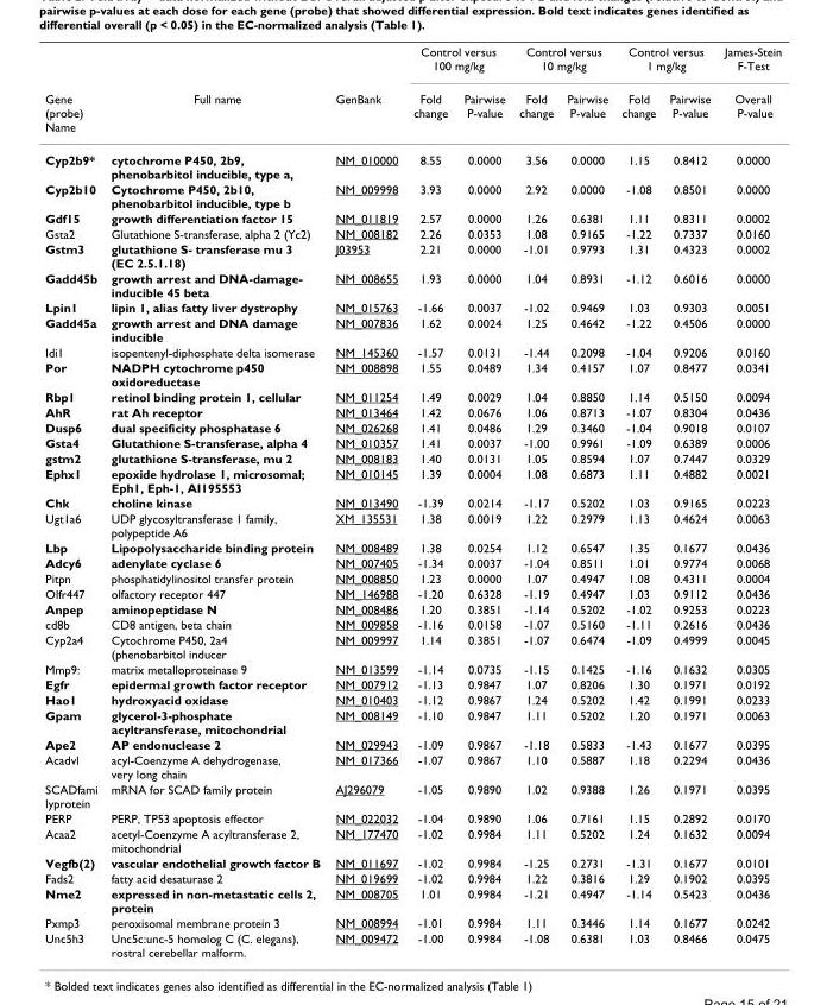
<table><thead><tr><td rowspan="2">Gene (probe) Name</td><td rowspan="2">Full name</td><td rowspan="2">GenBank</td><td colspan="2">Control versus 100 mg/kg</td><td colspan="2">Control versus 10 mg/kg</td><td colspan="2">Control versus 1 mg/kg</td><td rowspan="2">James-Stein F-Test Overall P-value</td></tr><tr><td>Fold change</td><td>Pairwise P-value</td><td>Fold change</td><td>Pairwise P-value</td><td>Fold change</td><td>Pairwise P-value</td></tr></thead><tbody><tr><td>Cyp2b9*</td><td>cytochrome P450, 2b9, phenobarbitol inducible, type a,</td><td>NM_010000</td><td>8.55</td><td>0.0000</td><td>3.56</td><td>0.0000</td><td>1.15</td><td>0.8412</td><td>0.0000</td></tr><tr><td>Cyp2b10</td><td>Cytochrome P450, 2b10, phenobarbitol inducible, type b</td><td>NM_009998</td><td>3.93</td><td>0.0000</td><td>2.92</td><td>0.0000</td><td>-1.08</td><td>0.8501</td><td>0.0000</td></tr><tr><td>Gdf15</td><td>growth differentiation factor 15</td><td>NM_011819</td><td>2.57</td><td>0.0000</td><td>1.26</td><td>0.6381</td><td>1.11</td><td>0.8311</td><td>0.0002</td></tr><tr><td>Gsta2</td><td>Glutathione S-transferase, alpha 2 (Yc2)</td><td>NM_008182</td><td>2.26</td><td>0.0353</td><td>1.08</td><td>0.9165</td><td>-1.22</td><td>0.7337</td><td>0.0160</td></tr><tr><td>Gstm3</td><td>glutathione S- transferase mu 3 (EC 2.5.1.18)</td><td>J03953</td><td>2.21</td><td>0.0000</td><td>-1.01</td><td>0.9793</td><td>1.31</td><td>0.4323</td><td>0.0002</td></tr><tr><td>Gadd45b</td><td>growth arrest and DNA-damage- inducible 45 beta</td><td>NM_008655</td><td>1.93</td><td>0.0000</td><td>1.04</td><td>0.8931</td><td>-1.12</td><td>0.6016</td><td>0.0000</td></tr><tr><td>Lpin1</td><td>lipin 1, alias fatty liver dystrophy</td><td>NM_015763</td><td>-1.66</td><td>0.0037</td><td>-1.02</td><td>0.9469</td><td>1.03</td><td>0.9303</td><td>0.0051</td></tr><tr><td>Gadd45a</td><td>growth arrest and DNA damage inducible</td><td>NM_007836</td><td>1.62</td><td>0.0024</td><td>1.25</td><td>0.4642</td><td>-1.22</td><td>0.4506</td><td>0.0000</td></tr><tr><td>Idi1</td><td>isopentenyl-diphosphate delta isomerase</td><td>NM_145360</td><td>-1.57</td><td>0.0131</td><td>-1.44</td><td>0.2098</td><td>-1.04</td><td>0.9206</td><td>0.0160</td></tr><tr><td>Por</td><td>NADPH cytochrome p450 oxidoreductase</td><td>NM_008898</td><td>1.55</td><td>0.0489</td><td>1.34</td><td>0.4157</td><td>1.07</td><td>0.8477</td><td>0.0341</td></tr><tr><td>Rbp1</td><td>retinol binding protein 1, cellular</td><td>NM_011254</td><td>1.49</td><td>0.0029</td><td>1.04</td><td>0.8850</td><td>1.14</td><td>0.5150</td><td>0.0094</td></tr><tr><td>AhR</td><td>rat Ah receptor</td><td>NM_013464</td><td>1.42</td><td>0.0676</td><td>1.06</td><td>0.8713</td><td>-1.07</td><td>0.8304</td><td>0.0436</td></tr><tr><td>Dusp6</td><td>dual specificity phosphatase 6</td><td>NM_026268</td><td>1.41</td><td>0.0486</td><td>1.29</td><td>0.3460</td><td>-1.04</td><td>0.9018</td><td>0.0107</td></tr><tr><td>Gsta4</td><td>Glutathione S-transferase, alpha 4</td><td>NM_010357</td><td>1.41</td><td>0.0037</td><td>-1.00</td><td>0.9961</td><td>-1.09</td><td>0.6389</td><td>0.0006</td></tr><tr><td>gstm2</td><td>glutathione S-transferase, mu 2</td><td>NM_008183</td><td>1.40</td><td>0.0131</td><td>1.05</td><td>0.8594</td><td>1.07</td><td>0.7447</td><td>0.0329</td></tr><tr><td>Ephx1</td><td>epoxide hydrolase 1, microsomal; Eph1, Eph-1, AI195553</td><td>NM_010145</td><td>1.39</td><td>0.0004</td><td>1.08</td><td>0.6873</td><td>1.11</td><td>0.4882</td><td>0.0021</td></tr><tr><td>Chk</td><td>choline kinase</td><td>NM_013490</td><td>-1.39</td><td>0.0214</td><td>-1.17</td><td>0.5202</td><td>1.03</td><td>0.9165</td><td>0.0223</td></tr><tr><td>Ugt1a6</td><td>UDP glycosyltransferase 1 family, polypeptide A6</td><td>XM_135531</td><td>1.38</td><td>0.0019</td><td>1.22</td><td>0.2979</td><td>1.13</td><td>0.4624</td><td>0.0063</td></tr><tr><td>Lbp</td><td>Lipopolysaccharide binding protein</td><td>NM_008489</td><td>1.38</td><td>0.0254</td><td>1.12</td><td>0.6547</td><td>1.35</td><td>0.1677</td><td>0.0436</td></tr><tr><td>Adcy6</td><td>adenylate cyclase 6</td><td>NM_007405</td><td>-1.34</td><td>0.0037</td><td>-1.04</td><td>0.8511</td><td>1.01</td><td>0.9774</td><td>0.0068</td></tr><tr><td>Pitpn</td><td>phosphatidylinositol transfer protein</td><td>NM_008850</td><td>1.23</td><td>0.0000</td><td>1.07</td><td>0.4947</td><td>1.08</td><td>0.4311</td><td>0.0004</td></tr><tr><td>Olfr447</td><td>olfactory receptor 447</td><td>NM_146988</td><td>-1.20</td><td>0.6328</td><td>-1.19</td><td>0.4947</td><td>1.03</td><td>0.9112</td><td>0.0436</td></tr><tr><td>Anpep</td><td>aminopeptidase N</td><td>NM_008486</td><td>1.20</td><td>0.3851</td><td>-1.14</td><td>0.5202</td><td>-1.02</td><td>0.9253</td><td>0.0223</td></tr><tr><td>cd8b</td><td>CD8 antigen, beta chain</td><td>NM_009858</td><td>-1.16</td><td>0.0158</td><td>-1.07</td><td>0.5160</td><td>-1.11</td><td>0.2616</td><td>0.0436</td></tr><tr><td>Cyp2a4</td><td>Cytochrome P450, 2a4 (phenobarbitol inducer</td><td>NM_009997</td><td>1.14</td><td>0.3851</td><td>-1.07</td><td>0.6474</td><td>-1.09</td><td>0.4999</td><td>0.0045</td></tr><tr><td>Mmp9:</td><td>matrix metalloproteinase 9</td><td>NM_013599</td><td>-1.14</td><td>0.0735</td><td>-1.15</td><td>0.1425</td><td>-1.16</td><td>0.1632</td><td>0.0305</td></tr><tr><td>Egfr</td><td>epidermal growth factor receptor</td><td>NM_007912</td><td>-1.13</td><td>0.9847</td><td>1.07</td><td>0.8206</td><td>1.30</td><td>0.1971</td><td>0.0192</td></tr><tr><td>Hao1</td><td>hydroxyacid oxidase</td><td>NM_010403</td><td>-1.12</td><td>0.9867</td><td>1.24</td><td>0.5202</td><td>1.42</td><td>0.1991</td><td>0.0233</td></tr><tr><td>Gpam</td><td>glycerol-3-phosphate acyltransferase, mitochondrial</td><td>NM_008149</td><td>-1.10</td><td>0.9847</td><td>1.11</td><td>0.5202</td><td>1.20</td><td>0.1971</td><td>0.0063</td></tr><tr><td>Ape2</td><td>AP endonuclease 2</td><td>NM_029943</td><td>-1.09</td><td>0.9867</td><td>-1.18</td><td>0.5833</td><td>-1.43</td><td>0.1677</td><td>0.0395</td></tr><tr><td>Acadvl</td><td>acyl-Coenzyme A dehydrogenase, very long chain</td><td>NM_017366</td><td>-1.07</td><td>0.9867</td><td>1.10</td><td>0.5887</td><td>1.18</td><td>0.2294</td><td>0.0436</td></tr><tr><td>SCADfami lyprotein</td><td>mRNA for SCAD family protein</td><td>AJ296079</td><td>-1.05</td><td>0.9890</td><td>1.02</td><td>0.9388</td><td>1.26</td><td>0.1971</td><td>0.0395</td></tr><tr><td>PERP</td><td>PERP, TP53 apoptosis effector</td><td>NM_022032</td><td>-1.04</td><td>0.9890</td><td>1.06</td><td>0.7161</td><td>1.15</td><td>0.2892</td><td>0.0170</td></tr><tr><td>Acaa2</td><td>acetyl-Coenzyme A acyltransferase 2, mitochondrial</td><td>NM_177470</td><td>-1.02</td><td>0.9984</td><td>1.11</td><td>0.5202</td><td>1.24</td><td>0.1632</td><td>0.0094</td></tr><tr><td>Vegfb(2)</td><td>vascular endothelial growth factor B</td><td>NM_011697</td><td>-1.02</td><td>0.9984</td><td>-1.25</td><td>0.2731</td><td>-1.31</td><td>0.1677</td><td>0.0101</td></tr><tr><td>Fads2</td><td>fatty acid desaturase 2</td><td>NM_019699</td><td>-1.02</td><td>0.9984</td><td>1.22</td><td>0.3816</td><td>1.29</td><td>0.1902</td><td>0.0395</td></tr><tr><td>Nme2</td><td>expressed in non-metastatic cells 2, protein</td><td>NM_008705</td><td>1.01</td><td>0.9984</td><td>-1.21</td><td>0.4947</td><td>-1.14</td><td>0.5423</td><td>0.0436</td></tr><tr><td>Pxmp3</td><td>peroxisomal membrane protein 3</td><td>NM_008994</td><td>-1.01</td><td>0.9984</td><td>1.11</td><td>0.3446</td><td>1.14</td><td>0.1677</td><td>0.0242</td></tr><tr><td>Unc5h3</td><td>Unc5c:unc-5 homolog C (C. elegans), rostral cerebellar malform.</td><td>NM_009472</td><td>-1.00</td><td>0.9984</td><td>-1.08</td><td>0.6381</td><td>1.03</td><td>0.8466</td><td>0.0475</td></tr></tbody></table>